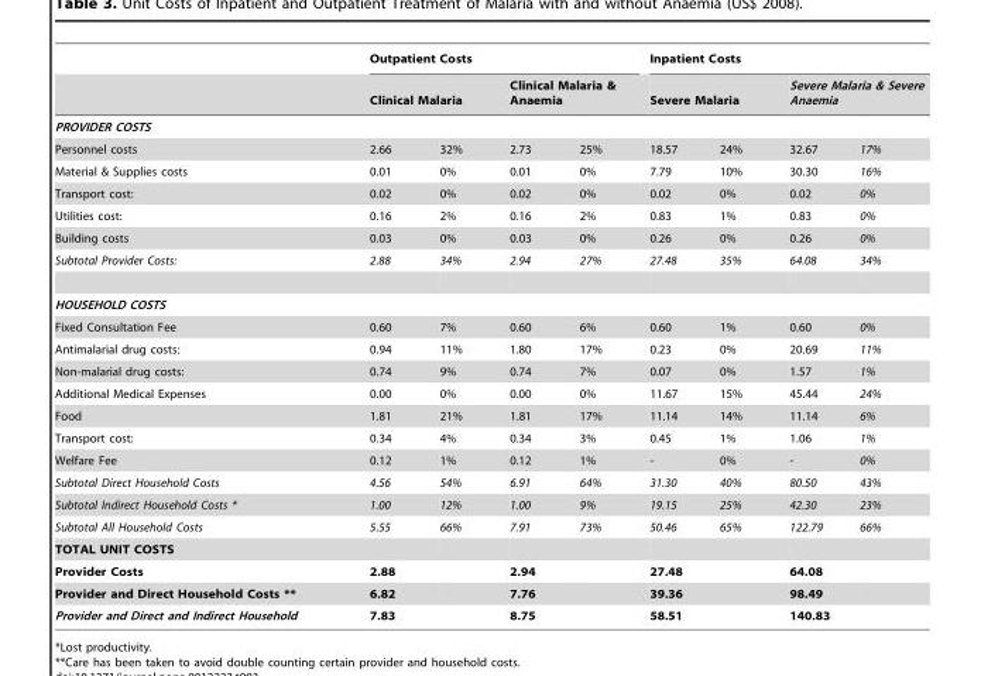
<table><thead><tr><td rowspan="3">PROVIDER COSTS</td><td colspan="4">Outpatient Costs</td><td colspan="4">Inpatient Costs</td></tr><tr><td colspan="2">Clinical Malaria</td><td colspan="2">Clinical Malaria &amp; Anaemia</td><td colspan="2">Severe Malaria</td><td colspan="2">Severe Malaria &amp; Severe Anaemia</td></tr><tr><td></td><td></td><td></td><td></td><td></td><td></td><td></td><td></td></tr></thead><tbody><tr><td>Personnel costs</td><td>2.66</td><td>32%</td><td>2.73</td><td>25%</td><td>18.57</td><td>24%</td><td>32.67</td><td>17%</td></tr><tr><td>Material &amp; Supplies costs</td><td>0.01</td><td>0%</td><td>0.01</td><td>0%</td><td>7.79</td><td>10%</td><td>30.30</td><td>16%</td></tr><tr><td>Transport cost:</td><td>0.02</td><td>0%</td><td>0.02</td><td>0%</td><td>0.02</td><td>0%</td><td>0.02</td><td>0%</td></tr><tr><td>Utilities cost:</td><td>0.16</td><td>2%</td><td>0.16</td><td>2%</td><td>0.83</td><td>1%</td><td>0.83</td><td>0%</td></tr><tr><td>Building costs</td><td>0.03</td><td>0%</td><td>0.03</td><td>0%</td><td>0.26</td><td>0%</td><td>0.26</td><td>0%</td></tr><tr><td>Subtotal Provider Costs:</td><td>2.88</td><td>34%</td><td>2.94</td><td>27%</td><td>27.48</td><td>35%</td><td>64.08</td><td>34%</td></tr><tr><td colspan="9">HOUSEHOLD COSTS</td></tr><tr><td>Fixed Consultation Fee</td><td>0.60</td><td>7%</td><td>0.60</td><td>6%</td><td>0.60</td><td>1%</td><td>0.60</td><td>0%</td></tr><tr><td>Antimalarial drug costs:</td><td>0.94</td><td>11%</td><td>1.80</td><td>17%</td><td>0.23</td><td>0%</td><td>20.69</td><td>11%</td></tr><tr><td>Non-malarial drug costs:</td><td>0.74</td><td>9%</td><td>0.74</td><td>7%</td><td>0.07</td><td>0%</td><td>1.57</td><td>1%</td></tr><tr><td>Additional Medical Expenses</td><td>0.00</td><td>0%</td><td>0.00</td><td>0%</td><td>11.67</td><td>15%</td><td>45.44</td><td>24%</td></tr><tr><td>Food</td><td>1.81</td><td>21%</td><td>1.81</td><td>17%</td><td>11.14</td><td>14%</td><td>11.14</td><td>6%</td></tr><tr><td>Transport cost:</td><td>0.34</td><td>4%</td><td>0.34</td><td>3%</td><td>0.45</td><td>1%</td><td>1.06</td><td>1%</td></tr><tr><td>Welfare Fee</td><td>0.12</td><td>1%</td><td>0.12</td><td>1%</td><td>-</td><td>0%</td><td>-</td><td>0%</td></tr><tr><td>Subtotal Direct Household Costs</td><td>4.56</td><td>54%</td><td>6.91</td><td>64%</td><td>31.30</td><td>40%</td><td>80.50</td><td>43%</td></tr><tr><td>Subtotal Indirect Household Costs *</td><td>1.00</td><td>12%</td><td>1.00</td><td>9%</td><td>19.15</td><td>25%</td><td>42.30</td><td>23%</td></tr><tr><td>Subtotal All Household Costs</td><td>5.55</td><td>66%</td><td>7.91</td><td>73%</td><td>50.46</td><td>65%</td><td>122.79</td><td>66%</td></tr><tr><td colspan="9">TOTAL UNIT COSTS</td></tr><tr><td>Provider Costs</td><td>2.88</td><td></td><td>2.94</td><td></td><td>27.48</td><td></td><td>64.08</td><td></td></tr><tr><td>Provider and Direct Household Costs **</td><td>6.82</td><td></td><td>7.76</td><td></td><td>39.36</td><td></td><td>98.49</td><td></td></tr><tr><td>Provider and Direct and Indirect Household</td><td>7.83</td><td></td><td>8.75</td><td></td><td>58.51</td><td></td><td>140.83</td><td></td></tr></tbody></table>